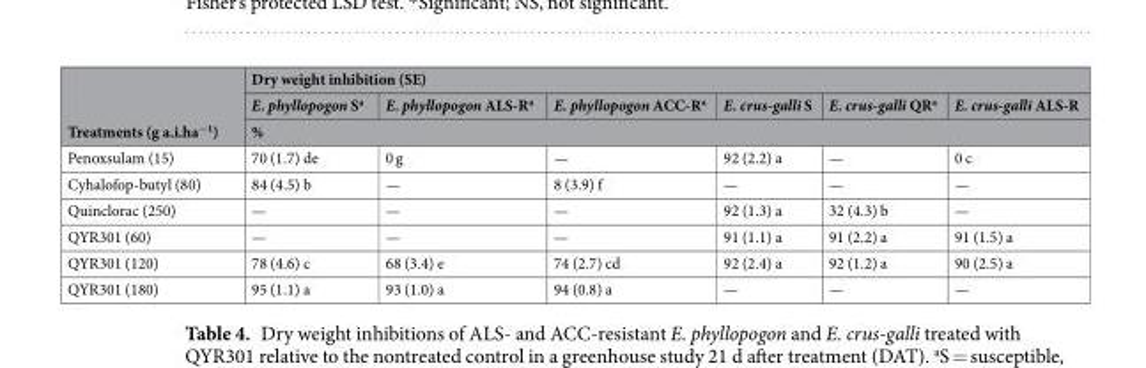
<table><thead><tr><td rowspan="3">Treatments (g a.i.ha<sup>−1</sup>)</td><td colspan="6">Dry weight inhibition (SE)</td></tr><tr><td>E. phyllopogon S<sup>a</sup></td><td>E. phyllopogon ALS-R<sup>a</sup></td><td>E. phyllopogon ACC-R<sup>a</sup></td><td>E. crus-galli S</td><td>E. crus-galli QR<sup>a</sup></td><td>E. crus-galli ALS-R</td></tr><tr><td colspan="6">%</td></tr></thead><tbody><tr><td>Penoxsulam (15)</td><td>70 (1.7) de</td><td>0 g</td><td>—</td><td>92 (2.2) a</td><td>—</td><td>0 c</td></tr><tr><td>Cyhalofop-butyl (80)</td><td>84 (4.5) b</td><td>—</td><td>8 (3.9) f</td><td>—</td><td>—</td><td>—</td></tr><tr><td>Quinclorac (250)</td><td>—</td><td>—</td><td>—</td><td>92 (1.3) a</td><td>32 (4.3) b</td><td>—</td></tr><tr><td>QYR301 (60)</td><td>—</td><td>—</td><td>—</td><td>91 (1.1) a</td><td>91 (2.2) a</td><td>91 (1.5) a</td></tr><tr><td>QYR301 (120)</td><td>78 (4.6) c</td><td>68 (3.4) e</td><td>74 (2.7) cd</td><td>92 (2.4) a</td><td>92 (1.2) a</td><td>90 (2.5) a</td></tr><tr><td>QYR301 (180)</td><td>95 (1.1) a</td><td>93 (1.0) a</td><td>94 (0.8) a</td><td>—</td><td>—</td><td>—</td></tr></tbody></table>